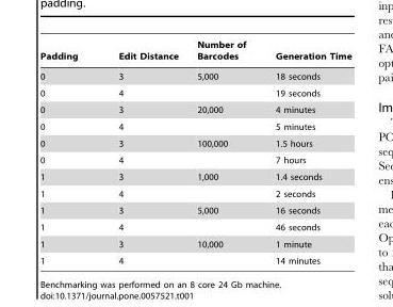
<table><thead><tr><td>Padding</td><td>Edit Distance</td><td>Number of Barcodes</td><td>Generation Time</td></tr></thead><tbody><tr><td>0</td><td>3</td><td>5,000</td><td>18 seconds</td></tr><tr><td>0</td><td>4</td><td></td><td>19 seconds</td></tr><tr><td>0</td><td>3</td><td>20,000</td><td>4 minutes</td></tr><tr><td>0</td><td>4</td><td></td><td>5 minutes</td></tr><tr><td>0</td><td>3</td><td>100,000</td><td>1.5 hours</td></tr><tr><td>0</td><td>4</td><td></td><td>7 hours</td></tr><tr><td>1</td><td>3</td><td>1,000</td><td>1.4 seconds</td></tr><tr><td>1</td><td>4</td><td></td><td>2 seconds</td></tr><tr><td>1</td><td>3</td><td>5,000</td><td>16 seconds</td></tr><tr><td>1</td><td>4</td><td></td><td>46 seconds</td></tr><tr><td>1</td><td>3</td><td>10,000</td><td>1 minute</td></tr><tr><td>1</td><td>4</td><td></td><td>14 minutes</td></tr></tbody></table>